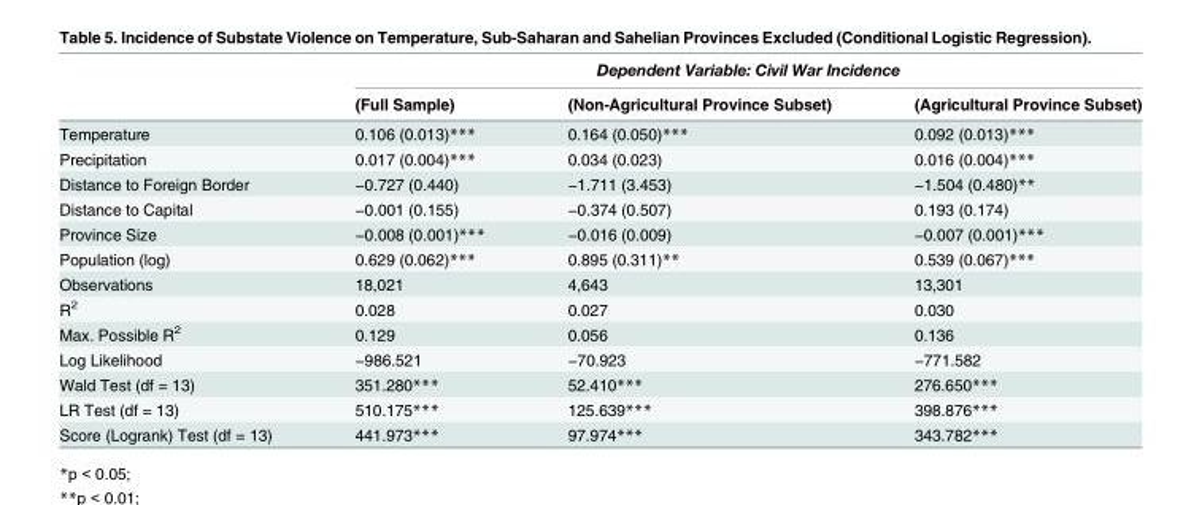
<table><thead><tr><td rowspan="2"></td><td colspan="3">Dependent Variable: Civil War Incidence</td></tr><tr><td>(Full Sample)</td><td>(Non-Agricultural Province Subset)</td><td>(Agricultural Province Subset)</td></tr></thead><tbody><tr><td>Temperature</td><td>0.106 (0.013)***</td><td>0.164 (0.050)***</td><td>0.092 (0.013)***</td></tr><tr><td>Precipitation</td><td>0.017 (0.004)***</td><td>0.034 (0.023)</td><td>0.016 (0.004)***</td></tr><tr><td>Distance to Foreign Border</td><td>−0.727 (0.440)</td><td>−1.711 (3.453)</td><td>−1.504 (0.480)**</td></tr><tr><td>Distance to Capital</td><td>−0.001 (0.155)</td><td>−0.374 (0.507)</td><td>0.193 (0.174)</td></tr><tr><td>Province Size</td><td>−0.008 (0.001)***</td><td>−0.016 (0.009)</td><td>−0.007 (0.001)***</td></tr><tr><td>Population (log)</td><td>0.629 (0.062)***</td><td>0.895 (0.311)**</td><td>0.539 (0.067)***</td></tr><tr><td>Observations</td><td>18,021</td><td>4,643</td><td>13,301</td></tr><tr><td>R<sup>2</sup></td><td>0.028</td><td>0.027</td><td>0.030</td></tr><tr><td>Max. Possible R<sup>2</sup></td><td>0.129</td><td>0.056</td><td>0.136</td></tr><tr><td>Log Likelihood</td><td>−986.521</td><td>−70.923</td><td>−771.582</td></tr><tr><td>Wald Test (df = 13)</td><td>351.280***</td><td>52.410***</td><td>276.650***</td></tr><tr><td>LR Test (df = 13)</td><td>510.175***</td><td>125.639***</td><td>398.876***</td></tr><tr><td>Score (Logrank) Test (df = 13)</td><td>441.973***</td><td>97.974***</td><td>343.782***</td></tr></tbody></table>